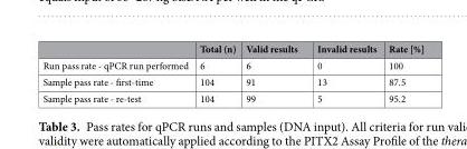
<table><thead><tr><td></td><td>Total (n)</td><td>Valid results</td><td>Invalid results</td><td>Rate [%]</td></tr></thead><tbody><tr><td>Run pass rate - qPCR run performed</td><td>6</td><td>6</td><td>0</td><td>100</td></tr><tr><td>Sample pass rate - first-time</td><td>104</td><td>91</td><td>13</td><td>87.5</td></tr><tr><td>Sample pass rate - re-test</td><td>104</td><td>99</td><td>5</td><td>95.2</td></tr></tbody></table>